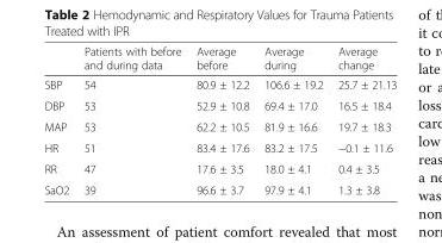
<table><thead><tr><td></td><td>Patients with before and during data</td><td>Average before</td><td>Average during</td><td>Average change</td></tr></thead><tbody><tr><td>SBP</td><td>54</td><td>80.9 ± 12.2</td><td>106.6 ± 19.2</td><td>25.7 ± 21.13</td></tr><tr><td>DBP</td><td>53</td><td>52.9 ± 10.8</td><td>69.4 ± 17.0</td><td>16.5 ± 18.4</td></tr><tr><td>MAP</td><td>53</td><td>62.2 ± 10.5</td><td>81.9 ± 16.6</td><td>19.7 ± 18.3</td></tr><tr><td>HR</td><td>51</td><td>83.4 ± 17.6</td><td>83.2 ± 17.5</td><td>−0.1 ± 11.6</td></tr><tr><td>RR</td><td>47</td><td>17.6 ± 3.5</td><td>18.0 ± 4.1</td><td>0.4 ± 3.5</td></tr><tr><td>SaO2</td><td>39</td><td>96.6 ± 3.7</td><td>97.9 ± 4.1</td><td>1.3 ± 3.8</td></tr></tbody></table>